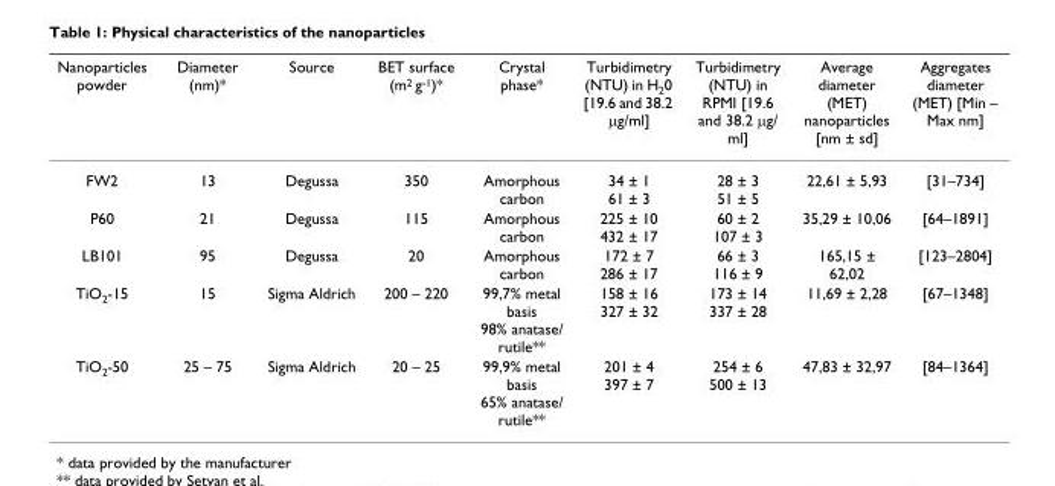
<table><thead><tr><td>Nanoparticles powder</td><td>Diameter (nm)*</td><td>Source</td><td>BET surface (m<sup>2</sup> g<sup>-1</sup>)*</td><td>Crystal phase*</td><td>Turbidimetry (NTU) in H<sub>2</sub>0 [19.6 and 38.2 μg/ml]</td><td>Turbidimetry (NTU) in RPMI [19.6 and 38.2 μg/ ml]</td><td>Average diameter (MET) nanoparticles [nm ± sd]</td><td>Aggregates diameter (MET) [Min – Max nm]</td></tr></thead><tbody><tr><td>FW2</td><td>13</td><td>Degussa</td><td>350</td><td>Amorphous carbon</td><td>34 ± 1 61 ± 3</td><td>28 ± 3 51 ± 5</td><td>22,61 ± 5,93</td><td>[31–734]</td></tr><tr><td>P60</td><td>21</td><td>Degussa</td><td>115</td><td>Amorphous carbon</td><td>225 ± 10 432 ± 17</td><td>60 ± 2 107 ± 3</td><td>35,29 ± 10,06</td><td>[64–1891]</td></tr><tr><td>LB101</td><td>95</td><td>Degussa</td><td>20</td><td>Amorphous carbon</td><td>172 ± 7 286 ± 17</td><td>66 ± 3 116 ± 9</td><td>165,15 ± 62,02</td><td>[123–2804]</td></tr><tr><td>TiO<sub>2</sub>-15</td><td>15</td><td>Sigma Aldrich</td><td>200 – 220</td><td>99,7% metal basis 98% anatase/ rutile**</td><td>158 ± 16 327 ± 32</td><td>173 ± 14 337 ± 28</td><td>11,69 ± 2,28</td><td>[67–1348]</td></tr><tr><td>TiO<sub>2</sub>-50</td><td>25 – 75</td><td>Sigma Aldrich</td><td>20 – 25</td><td>99,9% metal basis 65% anatase/ rutile**</td><td>201 ± 4 397 ± 7</td><td>254 ± 6 500 ± 13</td><td>47,83 ± 32,97</td><td>[84–1364]</td></tr></tbody></table>